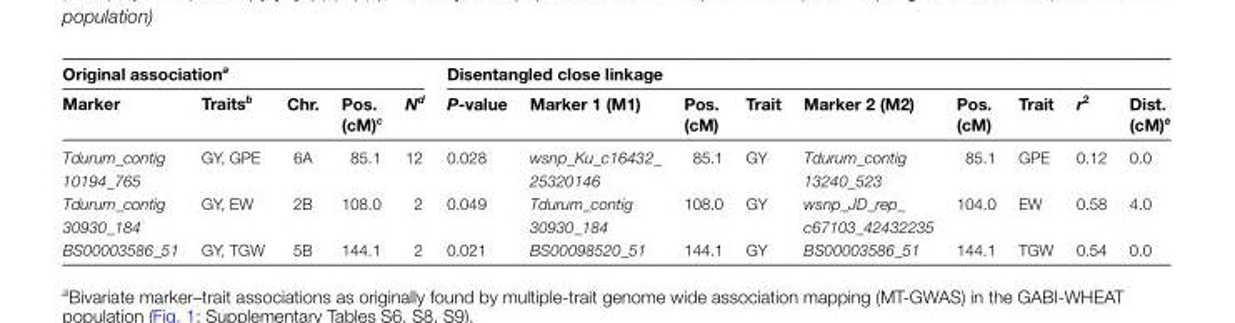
<table><thead><tr><td colspan="5">Original association<sup>a</sup></td><td colspan="9">Disentangled close linkage</td></tr><tr><td>Marker</td><td>Traits<sup>b</sup></td><td>Chr.</td><td>Pos. (cM)<sup>c</sup></td><td>N<sup>d</sup></td><td>P-value</td><td>Marker 1 (M1)</td><td>Pos. (cM)</td><td>Trait</td><td>Marker 2 (M2)</td><td>Pos. (cM)</td><td>Trait</td><td>r<sup>2</sup></td><td>Dist. (cM)<sup>e</sup></td></tr></thead><tbody><tr><td>Tdurum_contig 10194_765</td><td>GY, GPE</td><td>6A</td><td>85.1</td><td>12</td><td>0.028</td><td>wsnp_Ku_c16432_ 25320146</td><td>85.1</td><td>GY</td><td>Tdurum_contig 13240_523</td><td>85.1</td><td>GPE</td><td>0.12</td><td>0.0</td></tr><tr><td>Tdurum_contig 30930_184</td><td>GY, EW</td><td>2B</td><td>108.0</td><td>2</td><td>0.049</td><td>Tdurum_contig 30930_184</td><td>108.0</td><td>GY</td><td>wsnp_JD_rep_ c67103_42432235</td><td>104.0</td><td>EW</td><td>0.58</td><td>4.0</td></tr><tr><td>BS00003586_51</td><td>GY, TGW</td><td>5B</td><td>144.1</td><td>2</td><td>0.021</td><td>BS00098520_51</td><td>144.1</td><td>GY</td><td>BS00003586_51</td><td>144.1</td><td>TGW</td><td>0.54</td><td>0.0</td></tr></tbody></table>